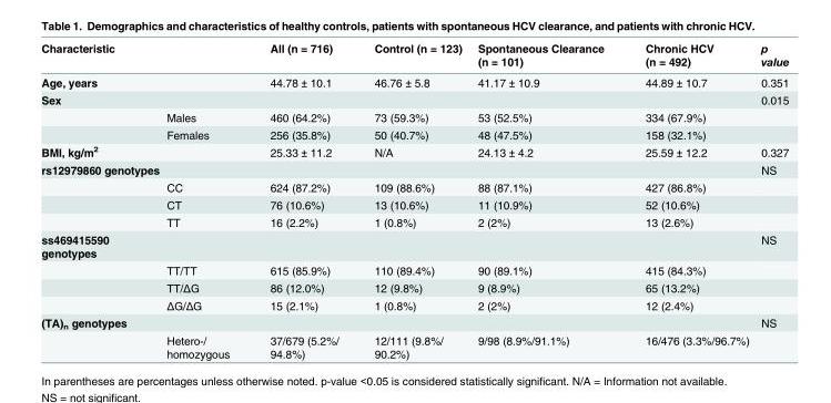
<table><thead><tr><td>Characteristic</td><td></td><td>All (n = 716)</td><td>Control (n = 123)</td><td>Spontaneous Clearance (n = 101)</td><td>Chronic HCV (n = 492)</td><td>p value</td></tr></thead><tbody><tr><td>Age, years</td><td></td><td>44.78 ± 10.1</td><td>46.76 ± 5.8</td><td>41.17 ± 10.9</td><td>44.89 ± 10.7</td><td>0.351</td></tr><tr><td rowspan="3">Sex</td><td></td><td></td><td></td><td></td><td></td><td>0.015</td></tr><tr><td>Males</td><td>460 (64.2%)</td><td>73 (59.3%)</td><td>53 (52.5%)</td><td>334 (67.9%)</td><td></td></tr><tr><td>Females</td><td>256 (35.8%)</td><td>50 (40.7%)</td><td>48 (47.5%)</td><td>158 (32.1%)</td><td></td></tr><tr><td>BMI, kg/m<sup>2</sup></td><td></td><td>25.33 ± 11.2</td><td>N/A</td><td>24.13 ± 4.2</td><td>25.59 ± 12.2</td><td>0.327</td></tr><tr><td rowspan="4">rs12979860 genotypes</td><td></td><td></td><td></td><td></td><td></td><td>NS</td></tr><tr><td>CC</td><td>624 (87.2%)</td><td>109 (88.6%)</td><td>88 (87.1%)</td><td>427 (86.8%)</td><td></td></tr><tr><td>CT</td><td>76 (10.6%)</td><td>13 (10.6%)</td><td>11 (10.9%)</td><td>52 (10.6%)</td><td></td></tr><tr><td>TT</td><td>16 (2.2%)</td><td>1 (0.8%)</td><td>2 (2%)</td><td>13 (2.6%)</td><td></td></tr><tr><td rowspan="4">ss469415590 genotypes</td><td></td><td></td><td></td><td></td><td></td><td>NS</td></tr><tr><td>TT/TT</td><td>615 (85.9%)</td><td>110 (89.4%)</td><td>90 (89.1%)</td><td>415 (84.3%)</td><td></td></tr><tr><td>TT/ΔG</td><td>86 (12.0%)</td><td>12 (9.8%)</td><td>9 (8.9%)</td><td>65 (13.2%)</td><td></td></tr><tr><td>ΔG/ΔG</td><td>15 (2.1%)</td><td>1 (0.8%)</td><td>2 (2%)</td><td>12 (2.4%)</td><td></td></tr><tr><td rowspan="2">(TA)<sub>n</sub> genotypes</td><td></td><td></td><td></td><td></td><td></td><td>NS</td></tr><tr><td>Hetero-/ homozygous</td><td>37/679 (5.2%/ 94.8%)</td><td>12/111 (9.8%/ 90.2%)</td><td>9/98 (8.9%/91.1%)</td><td>16/476 (3.3%/96.7%)</td><td></td></tr></tbody></table>